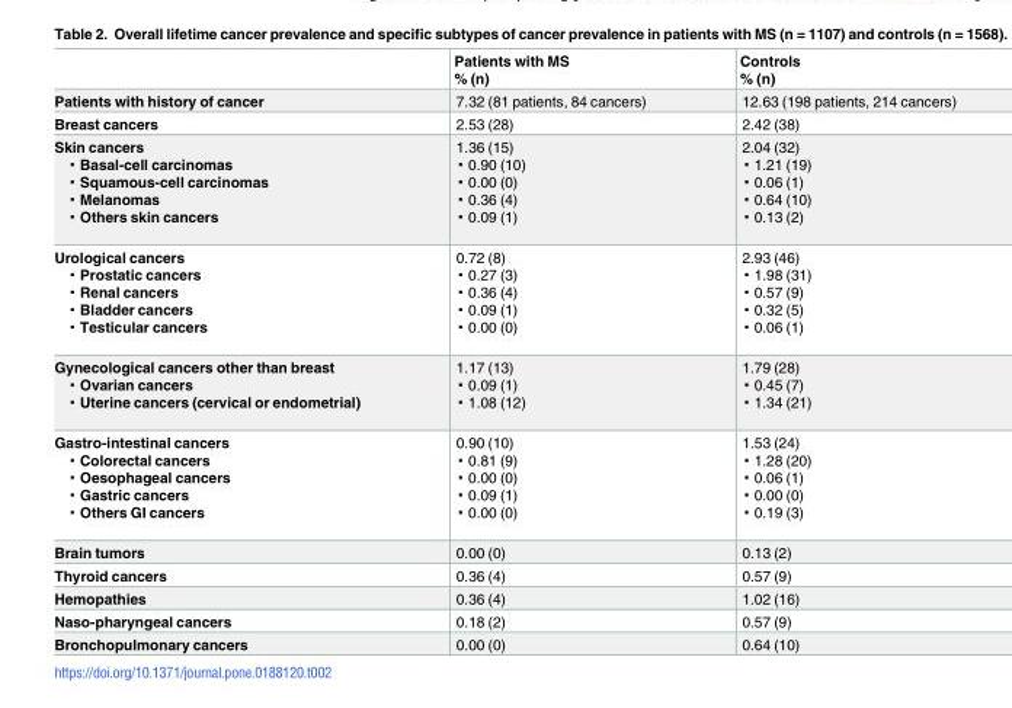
<table><thead><tr><td></td><td>Patients with MS % (n)</td><td>Controls % (n)</td></tr></thead><tbody><tr><td>Patients with history of cancer</td><td>7.32 (81 patients, 84 cancers)</td><td>12.63 (198 patients, 214 cancers)</td></tr><tr><td>Breast cancers</td><td>2.53 (28)</td><td>2.42 (38)</td></tr><tr><td>Skin cancers ▪ Basal-cell carcinomas ▪ Squamous-cell carcinomas ▪ Melanomas ▪ Others skin cancers</td><td>1.36 (15) ▪ 0.90 (10) ▪ 0.00 (0) ▪ 0.36 (4) ▪ 0.09 (1)</td><td>2.04 (32) ▪ 1.21 (19) ▪ 0.06 (1) ▪ 0.64 (10) ▪ 0.13 (2)</td></tr><tr><td>Urological cancers ▪ Prostatic cancers ▪ Renal cancers ▪ Bladder cancers ▪ Testicular cancers</td><td>0.72 (8) ▪ 0.27 (3) ▪ 0.36 (4) ▪ 0.09 (1) ▪ 0.00 (0)</td><td>2.93 (46) ▪ 1.98 (31) ▪ 0.57 (9) ▪ 0.32 (5) ▪ 0.06 (1)</td></tr><tr><td>Gynecological cancers other than breast ▪ Ovarian cancers ▪ Uterine cancers (cervical or endometrial)</td><td>1.17 (13) ▪ 0.09 (1) ▪ 1.08 (12)</td><td>1.79 (28) ▪ 0.45 (7) ▪ 1.34 (21)</td></tr><tr><td>Gastro-intestinal cancers ▪ Colorectal cancers ▪ Oesophageal cancers ▪ Gastric cancers ▪ Others GI cancers</td><td>0.90 (10) ▪ 0.81 (9) ▪ 0.00 (0) ▪ 0.09 (1) ▪ 0.00 (0)</td><td>1.53 (24) ▪ 1.28 (20) ▪ 0.06 (1) ▪ 0.00 (0) ▪ 0.19 (3)</td></tr><tr><td>Brain tumors</td><td>0.00 (0)</td><td>0.13 (2)</td></tr><tr><td>Thyroid cancers</td><td>0.36 (4)</td><td>0.57 (9)</td></tr><tr><td>Hemopathies</td><td>0.36 (4)</td><td>1.02 (16)</td></tr><tr><td>Naso-pharyngeal cancers</td><td>0.18 (2)</td><td>0.57 (9)</td></tr><tr><td>Bronchopulmonary cancers</td><td>0.00 (0)</td><td>0.64 (10)</td></tr></tbody></table>